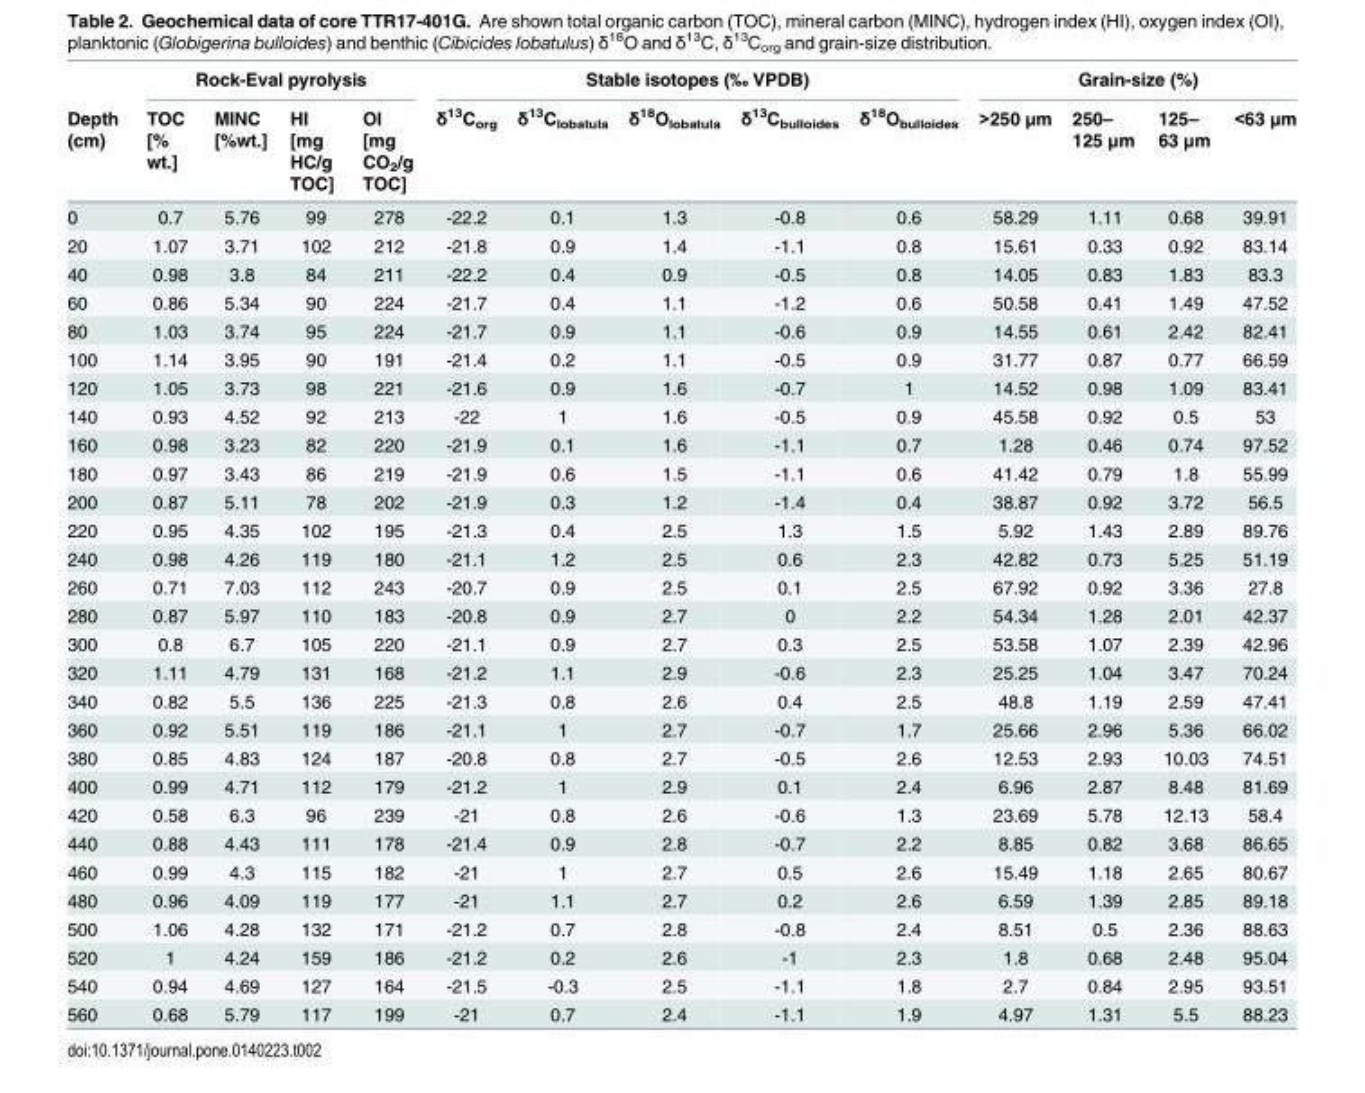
<table><thead><tr><td rowspan="2">Depth (cm)</td><td colspan="4">Rock-Eval pyrolysis</td><td colspan="5">Stable isotopes (‰ VPDB)</td><td colspan="4">Grain-size (%)</td></tr><tr><td>TOC [% wt.]</td><td>MINC [%wt.]</td><td>HI [mg HC/g TOC]</td><td>OI [mg CO<sub>2</sub>/g TOC]</td><td>δ<sup>13</sup>C<sub>org</sub></td><td>δ<sup>13</sup>C<sub>lobatula</sub></td><td>δ<sup>18</sup>O<sub>lobatula</sub></td><td>δ<sup>13</sup>C<sub>bulloides</sub></td><td>δ<sup>18</sup>O<sub>bulloides</sub></td><td>&gt;250 μm</td><td>250– 125 μm</td><td>125– 63 μm</td><td>&lt;63 μm</td></tr></thead><tbody><tr><td>0</td><td>0.7</td><td>5.76</td><td>99</td><td>278</td><td>-22.2</td><td>0.1</td><td>1.3</td><td>-0.8</td><td>0.6</td><td>58.29</td><td>1.11</td><td>0.68</td><td>39.91</td></tr><tr><td>20</td><td>1.07</td><td>3.71</td><td>102</td><td>212</td><td>-21.8</td><td>0.9</td><td>1.4</td><td>-1.1</td><td>0.8</td><td>15.61</td><td>0.33</td><td>0.92</td><td>83.14</td></tr><tr><td>40</td><td>0.98</td><td>3.8</td><td>84</td><td>211</td><td>-22.2</td><td>0.4</td><td>0.9</td><td>-0.5</td><td>0.8</td><td>14.05</td><td>0.83</td><td>1.83</td><td>83.3</td></tr><tr><td>60</td><td>0.86</td><td>5.34</td><td>90</td><td>224</td><td>-21.7</td><td>0.4</td><td>1.1</td><td>-1.2</td><td>0.6</td><td>50.58</td><td>0.41</td><td>1.49</td><td>47.52</td></tr><tr><td>80</td><td>1.03</td><td>3.74</td><td>95</td><td>224</td><td>-21.7</td><td>0.9</td><td>1.1</td><td>-0.6</td><td>0.9</td><td>14.55</td><td>0.61</td><td>2.42</td><td>82.41</td></tr><tr><td>100</td><td>1.14</td><td>3.95</td><td>90</td><td>191</td><td>-21.4</td><td>0.2</td><td>1.1</td><td>-0.5</td><td>0.9</td><td>31.77</td><td>0.87</td><td>0.77</td><td>66.59</td></tr><tr><td>120</td><td>1.05</td><td>3.73</td><td>98</td><td>221</td><td>-21.6</td><td>0.9</td><td>1.6</td><td>-0.7</td><td>1</td><td>14.52</td><td>0.98</td><td>1.09</td><td>83.41</td></tr><tr><td>140</td><td>0.93</td><td>4.52</td><td>92</td><td>213</td><td>-22</td><td>1</td><td>1.6</td><td>-0.5</td><td>0.9</td><td>45.58</td><td>0.92</td><td>0.5</td><td>53</td></tr><tr><td>160</td><td>0.98</td><td>3.23</td><td>82</td><td>220</td><td>-21.9</td><td>0.1</td><td>1.6</td><td>-1.1</td><td>0.7</td><td>1.28</td><td>0.46</td><td>0.74</td><td>97.52</td></tr><tr><td>180</td><td>0.97</td><td>3.43</td><td>86</td><td>219</td><td>-21.9</td><td>0.6</td><td>1.5</td><td>-1.1</td><td>0.6</td><td>41.42</td><td>0.79</td><td>1.8</td><td>55.99</td></tr><tr><td>200</td><td>0.87</td><td>5.11</td><td>78</td><td>202</td><td>-21.9</td><td>0.3</td><td>1.2</td><td>-1.4</td><td>0.4</td><td>38.87</td><td>0.92</td><td>3.72</td><td>56.5</td></tr><tr><td>220</td><td>0.95</td><td>4.35</td><td>102</td><td>195</td><td>-21.3</td><td>0.4</td><td>2.5</td><td>1.3</td><td>1.5</td><td>5.92</td><td>1.43</td><td>2.89</td><td>89.76</td></tr><tr><td>240</td><td>0.98</td><td>4.26</td><td>119</td><td>180</td><td>-21.1</td><td>1.2</td><td>2.5</td><td>0.6</td><td>2.3</td><td>42.82</td><td>0.73</td><td>5.25</td><td>51.19</td></tr><tr><td>260</td><td>0.71</td><td>7.03</td><td>112</td><td>243</td><td>-20.7</td><td>0.9</td><td>2.5</td><td>0.1</td><td>2.5</td><td>67.92</td><td>0.92</td><td>3.36</td><td>27.8</td></tr><tr><td>280</td><td>0.87</td><td>5.97</td><td>110</td><td>183</td><td>-20.8</td><td>0.9</td><td>2.7</td><td>0</td><td>2.2</td><td>54.34</td><td>1.28</td><td>2.01</td><td>42.37</td></tr><tr><td>300</td><td>0.8</td><td>6.7</td><td>105</td><td>220</td><td>-21.1</td><td>0.9</td><td>2.7</td><td>0.3</td><td>2.5</td><td>53.58</td><td>1.07</td><td>2.39</td><td>42.96</td></tr><tr><td>320</td><td>1.11</td><td>4.79</td><td>131</td><td>168</td><td>-21.2</td><td>1.1</td><td>2.9</td><td>-0.6</td><td>2.3</td><td>25.25</td><td>1.04</td><td>3.47</td><td>70.24</td></tr><tr><td>340</td><td>0.82</td><td>5.5</td><td>136</td><td>225</td><td>-21.3</td><td>0.8</td><td>2.6</td><td>0.4</td><td>2.5</td><td>48.8</td><td>1.19</td><td>2.59</td><td>47.41</td></tr><tr><td>360</td><td>0.92</td><td>5.51</td><td>119</td><td>186</td><td>-21.1</td><td>1</td><td>2.7</td><td>-0.7</td><td>1.7</td><td>25.66</td><td>2.96</td><td>5.36</td><td>66.02</td></tr><tr><td>380</td><td>0.85</td><td>4.83</td><td>124</td><td>187</td><td>-20.8</td><td>0.8</td><td>2.7</td><td>-0.5</td><td>2.6</td><td>12.53</td><td>2.93</td><td>10.03</td><td>74.51</td></tr><tr><td>400</td><td>0.99</td><td>4.71</td><td>112</td><td>179</td><td>-21.2</td><td>1</td><td>2.9</td><td>0.1</td><td>2.4</td><td>6.96</td><td>2.87</td><td>8.48</td><td>81.69</td></tr><tr><td>420</td><td>0.58</td><td>6.3</td><td>96</td><td>239</td><td>-21</td><td>0.8</td><td>2.6</td><td>-0.6</td><td>1.3</td><td>23.69</td><td>5.78</td><td>12.13</td><td>58.4</td></tr><tr><td>440</td><td>0.88</td><td>4.43</td><td>111</td><td>178</td><td>-21.4</td><td>0.9</td><td>2.8</td><td>-0.7</td><td>2.2</td><td>8.85</td><td>0.82</td><td>3.68</td><td>86.65</td></tr><tr><td>460</td><td>0.99</td><td>4.3</td><td>115</td><td>182</td><td>-21</td><td>1</td><td>2.7</td><td>0.5</td><td>2.6</td><td>15.49</td><td>1.18</td><td>2.65</td><td>80.67</td></tr><tr><td>480</td><td>0.96</td><td>4.09</td><td>119</td><td>177</td><td>-21</td><td>1.1</td><td>2.7</td><td>0.2</td><td>2.6</td><td>6.59</td><td>1.39</td><td>2.85</td><td>89.18</td></tr><tr><td>500</td><td>1.06</td><td>4.28</td><td>132</td><td>171</td><td>-21.2</td><td>0.7</td><td>2.8</td><td>-0.8</td><td>2.4</td><td>8.51</td><td>0.5</td><td>2.36</td><td>88.63</td></tr><tr><td>520</td><td>1</td><td>4.24</td><td>159</td><td>186</td><td>-21.2</td><td>0.2</td><td>2.6</td><td>-1</td><td>2.3</td><td>1.8</td><td>0.68</td><td>2.48</td><td>95.04</td></tr><tr><td>540</td><td>0.94</td><td>4.69</td><td>127</td><td>164</td><td>-21.5</td><td>-0.3</td><td>2.5</td><td>-1.1</td><td>1.8</td><td>2.7</td><td>0.84</td><td>2.95</td><td>93.51</td></tr><tr><td>560</td><td>0.68</td><td>5.79</td><td>117</td><td>199</td><td>-21</td><td>0.7</td><td>2.4</td><td>-1.1</td><td>1.9</td><td>4.97</td><td>1.31</td><td>5.5</td><td>88.23</td></tr></tbody></table>